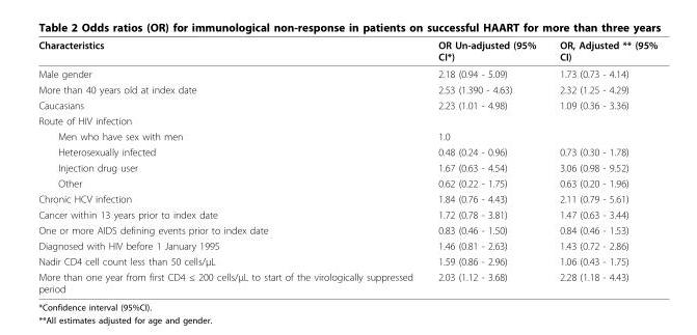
<table><thead><tr><td>Characteristics</td><td>OR Un-adjusted (95% CI*)</td><td>OR, Adjusted ** (95% CI)</td></tr></thead><tbody><tr><td>Male gender</td><td>2.18 (0.94 - 5.09)</td><td>1.73 (0.73 - 4.14)</td></tr><tr><td>More than 40 years old at index date</td><td>2.53 (1.390 - 4.63)</td><td>2.32 (1.25 - 4.29)</td></tr><tr><td>Caucasians</td><td>2.23 (1.01 - 4.98)</td><td>1.09 (0.36 - 3.36)</td></tr><tr><td colspan="3">Route of HIV infection</td></tr><tr><td>Men who have sex with men</td><td>1.0</td><td></td></tr><tr><td>Heterosexually infected</td><td>0.48 (0.24 - 0.96)</td><td>0.73 (0.30 - 1.78)</td></tr><tr><td>Injection drug user</td><td>1.67 (0.63 - 4.54)</td><td>3.06 (0.98 - 9.52)</td></tr><tr><td>Other</td><td>0.62 (0.22 - 1.75)</td><td>0.63 (0.20 - 1.96)</td></tr><tr><td>Chronic HCV infection</td><td>1.84 (0.76 - 4.43)</td><td>2.11 (0.79 - 5.61)</td></tr><tr><td>Cancer within 13 years prior to index date</td><td>1.72 (0.78 - 3.81)</td><td>1.47 (0.63 - 3.44)</td></tr><tr><td>One or more AIDS defining events prior to index date</td><td>0.83 (0.46 - 1.50)</td><td>0.84 (0.46 - 1.53)</td></tr><tr><td>Diagnosed with HIV before 1 January 1995</td><td>1.46 (0.81 - 2.63)</td><td>1.43 (0.72 - 2.86)</td></tr><tr><td>Nadir CD4 cell count less than 50 cells/μL</td><td>1.59 (0.86 - 2.96)</td><td>1.06 (0.43 - 1.75)</td></tr><tr><td>More than one year from first CD4 ≤ 200 cells/μL to start of the virologically suppressed period</td><td>2.03 (1.12 - 3.68)</td><td>2.28 (1.18 - 4.43)</td></tr></tbody></table>